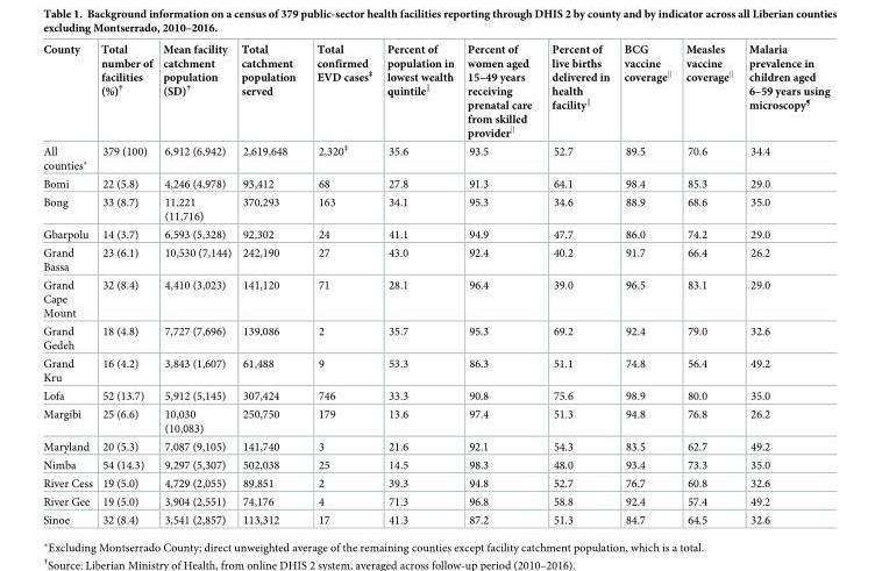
<table><thead><tr><td>County</td><td>Total number of facilities (%)<sup>†</sup></td><td>Mean facility catchment population (SD)<sup>†</sup></td><td>Total catchment population served</td><td>Total confirmed EVD cases<sup>‡</sup></td><td>Percent of population in lowest wealth quintile<sup>‖</sup></td><td>Percent of women aged 15–49 years receiving prenatal care from skilled provider<sup>‖</sup></td><td>Percent of live births delivered in health facility<sup>‖</sup></td><td>BCG vaccine coverage<sup>‖</sup></td><td>Measles vaccine coverage<sup>‖</sup></td><td>Malaria prevalence in children aged 6–59 years using microscopy<sup>¶</sup></td></tr></thead><tbody><tr><td>All counties*</td><td>379 (100)</td><td>6,912 (6,942)</td><td>2,619,648</td><td>2,320<sup>‡</sup></td><td>35.6</td><td>93.5</td><td>52.7</td><td>89.5</td><td>70.6</td><td>34.4</td></tr><tr><td>Bomi</td><td>22 (5.8)</td><td>4,246 (4,978)</td><td>93,412</td><td>68</td><td>27.8</td><td>91.3</td><td>64.1</td><td>98.4</td><td>85.3</td><td>29.0</td></tr><tr><td>Bong</td><td>33 (8.7)</td><td>11,221 (11,716)</td><td>370,293</td><td>163</td><td>34.1</td><td>95.3</td><td>34.6</td><td>88.9</td><td>68.6</td><td>35.0</td></tr><tr><td>Gbarpolu</td><td>14 (3.7)</td><td>6,593 (5,328)</td><td>92,302</td><td>24</td><td>41.1</td><td>94.9</td><td>47.7</td><td>86.0</td><td>74.2</td><td>29.0</td></tr><tr><td>Grand Bassa</td><td>23 (6.1)</td><td>10,530 (7,144)</td><td>242,190</td><td>27</td><td>43.0</td><td>92.4</td><td>40.2</td><td>91.7</td><td>66.4</td><td>26.2</td></tr><tr><td>Grand Cape Mount</td><td>32 (8.4)</td><td>4,410 (3,023)</td><td>141,120</td><td>71</td><td>28.1</td><td>96.4</td><td>39.0</td><td>96.5</td><td>83.1</td><td>29.0</td></tr><tr><td>Grand Gedeh</td><td>18 (4.8)</td><td>7,727 (7,696)</td><td>139,086</td><td>2</td><td>35.7</td><td>95.3</td><td>69.2</td><td>92.4</td><td>79.0</td><td>32.6</td></tr><tr><td>Grand Kru</td><td>16 (4.2)</td><td>3,843 (1,607)</td><td>61,488</td><td>9</td><td>53.3</td><td>86.3</td><td>51.1</td><td>74.8</td><td>56.4</td><td>49.2</td></tr><tr><td>Lofa</td><td>52 (13.7)</td><td>5,912 (5,145)</td><td>307,424</td><td>746</td><td>33.3</td><td>90.8</td><td>75.6</td><td>98.9</td><td>80.0</td><td>35.0</td></tr><tr><td>Margibi</td><td>25 (6.6)</td><td>10,030 (10,083)</td><td>250,750</td><td>179</td><td>13.6</td><td>97.4</td><td>51.3</td><td>94.8</td><td>76.8</td><td>26.2</td></tr><tr><td>Maryland</td><td>20 (5.3)</td><td>7,087 (9,105)</td><td>141,740</td><td>3</td><td>21.6</td><td>92.1</td><td>54.3</td><td>83.5</td><td>62.7</td><td>49.2</td></tr><tr><td>Nimba</td><td>54 (14.3)</td><td>9,297 (5,307)</td><td>502,038</td><td>25</td><td>14.5</td><td>98.3</td><td>48.0</td><td>93.4</td><td>73.3</td><td>35.0</td></tr><tr><td>River Cess</td><td>19 (5.0)</td><td>4,729 (2,055)</td><td>89,851</td><td>2</td><td>39.3</td><td>94.8</td><td>52.7</td><td>76.7</td><td>60.8</td><td>32.6</td></tr><tr><td>River Gee</td><td>19 (5.0)</td><td>3,904 (2,551)</td><td>74,176</td><td>4</td><td>71.3</td><td>96.8</td><td>58.8</td><td>92.4</td><td>57.4</td><td>49.2</td></tr><tr><td>Sinoe</td><td>32 (8.4)</td><td>3,541 (2,857)</td><td>113,312</td><td>17</td><td>41.3</td><td>87.2</td><td>51.3</td><td>84.7</td><td>64.5</td><td>32.6</td></tr></tbody></table>